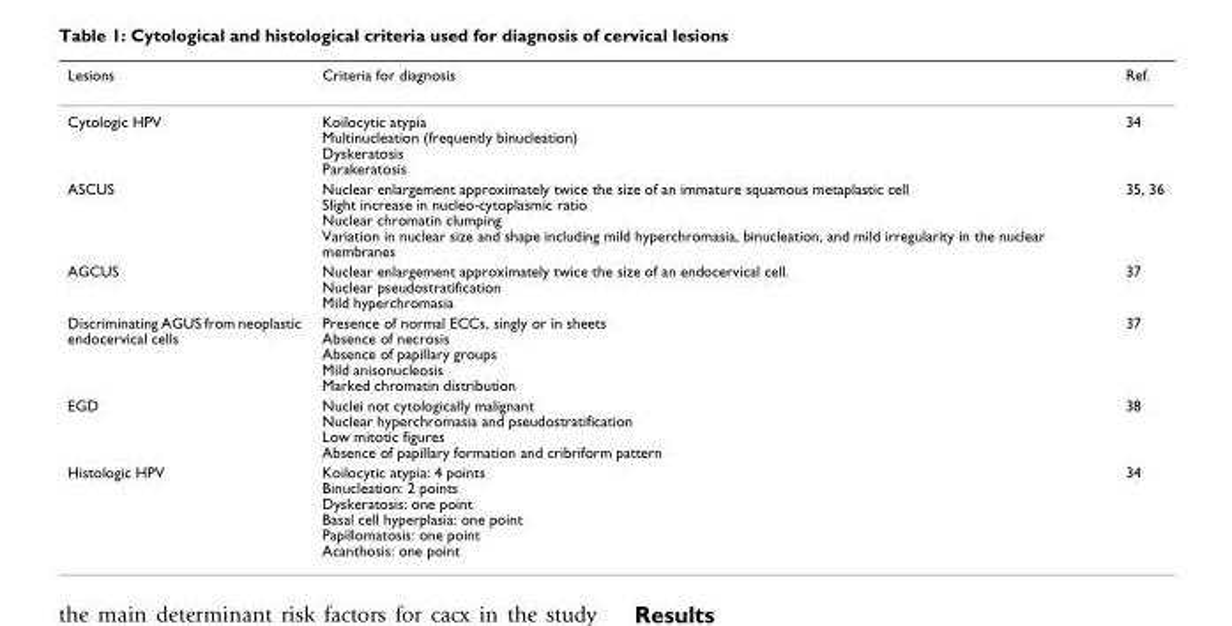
<table><thead><tr><td>Lesions</td><td>Criteria for diagnosis</td><td>Ref.</td></tr></thead><tbody><tr><td>Cytologic HPV</td><td>Koilocytic atypia Multinucleation (frequently binucleation) Dyskeratosis Parakeratosis</td><td>34</td></tr><tr><td>ASCUS</td><td>Nuclear enlargement approximately twice the size of an immature squamous metaplastic cell Slight increase in nucleo-cytoplasmic ratio Nuclear chromatin clumping Variation in nuclear size and shape including mild hyperchromasia, binucleation, and mild irregularity in the nuclear membranes</td><td>35, 36</td></tr><tr><td>AGCUS</td><td>Nuclear enlargement approximately twice the size of an endocervical cell. Nuclear pseudostratification Mild hyperchromasia</td><td>37</td></tr><tr><td>Discriminating AGUS from neoplastic endocervical cells</td><td>Presence of normal ECCs, singly or in sheets Absence of necrosis Absence of papillary groups Mild anisonucleosis Marked chromatin distribution</td><td>37</td></tr><tr><td>EGD</td><td>Nuclei not cytologically malignant Nuclear hyperchromasia and pseudostratification Low mitotic figures Absence of papillary formation and cribriform pattern</td><td>38</td></tr><tr><td>Histologic HPV</td><td>Koilocytic atypia: 4 points Binucleation: 2 points Dyskeratosis: one point Basal cell hyperplasia: one point Papillomatosis: one point Acanthosis: one point</td><td>34</td></tr></tbody></table>